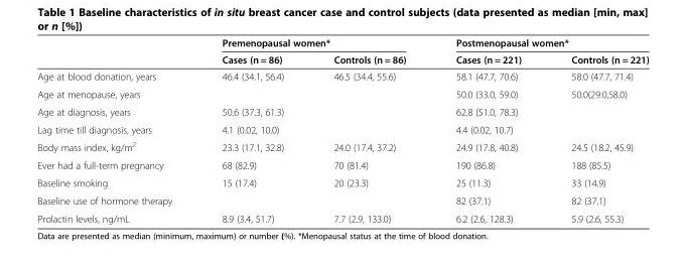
<table><thead><tr><td rowspan="2"></td><td colspan="2">Premenopausal women*</td><td colspan="2">Postmenopausal women*</td></tr><tr><td>Cases (n = 86)</td><td>Controls (n = 86)</td><td>Cases (n = 221)</td><td>Controls (n = 221)</td></tr></thead><tbody><tr><td>Age at blood donation, years</td><td>46.4 (34.1, 56.4)</td><td>46.5 (34.4, 55.6)</td><td>58.1 (47.7, 70.6)</td><td>58.0 (47.7, 71.4)</td></tr><tr><td>Age at menopause, years</td><td></td><td></td><td>50.0 (33.0, 59.0)</td><td>50.0(29.0,58.0)</td></tr><tr><td>Age at diagnosis, years</td><td>50.6 (37.3, 61.3)</td><td></td><td>62.8 (51.0, 78.3)</td><td></td></tr><tr><td>Lag time till diagnosis, years</td><td>4.1 (0.02, 10.0)</td><td></td><td>4.4 (0.02, 10.7)</td><td></td></tr><tr><td>Body mass index, kg/m<sup>2</sup></td><td>23.3 (17.1, 32.8)</td><td>24.0 (17.4, 37.2)</td><td>24.9 (17.8, 40.8)</td><td>24.5 (18.2, 45.9)</td></tr><tr><td>Ever had a full-term pregnancy</td><td>68 (82.9)</td><td>70 (81.4)</td><td>190 (86.8)</td><td>188 (85.5)</td></tr><tr><td>Baseline smoking</td><td>15 (17.4)</td><td>20 (23.3)</td><td>25 (11.3)</td><td>33 (14.9)</td></tr><tr><td>Baseline use of hormone therapy</td><td></td><td></td><td>82 (37.1)</td><td>82 (37.1)</td></tr><tr><td>Prolactin levels, ng/mL</td><td>8.9 (3.4, 51.7)</td><td>7.7 (2.9, 133.0)</td><td>6.2 (2.6, 128.3)</td><td>5.9 (2.6, 55.3)</td></tr></tbody></table>